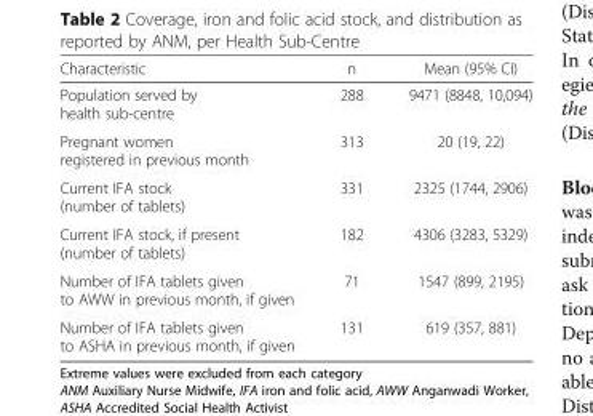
<table><thead><tr><td>Characteristic</td><td>n</td><td>Mean (95% CI)</td></tr></thead><tbody><tr><td>Population served by health sub-centre</td><td>288</td><td>9471 (8848, 10,094)</td></tr><tr><td>Pregnant women registered in previous month</td><td>313</td><td>20 (19, 22)</td></tr><tr><td>Current IFA stock (number of tablets)</td><td>331</td><td>2325 (1744, 2906)</td></tr><tr><td>Current IFA stock, if present (number of tablets)</td><td>182</td><td>4306 (3283, 5329)</td></tr><tr><td>Number of IFA tablets given to AWW in previous month, if given</td><td>71</td><td>1547 (899, 2195)</td></tr><tr><td>Number of IFA tablets given to ASHA in previous month, if given</td><td>131</td><td>619 (357, 881)</td></tr></tbody></table>